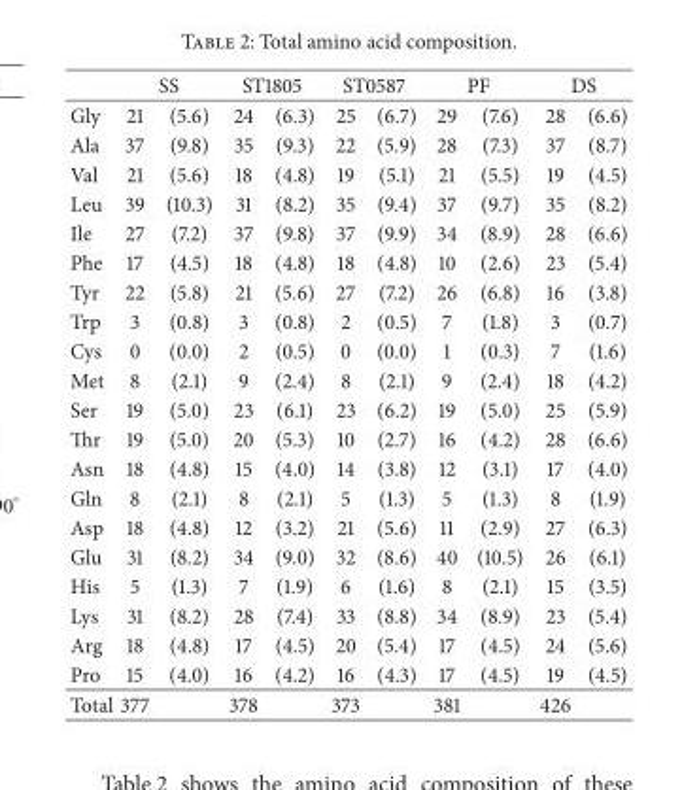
<table><thead><tr><td rowspan="2">Gly</td><td colspan="2">SS</td><td colspan="2">ST1805</td><td colspan="2">ST0587</td><td colspan="2">PF</td><td colspan="2">DS</td></tr><tr><td>21</td><td>(5.6)</td><td>24</td><td>(6.3)</td><td>25</td><td>(6.7)</td><td>29</td><td>(7.6)</td><td>28</td><td>(6.6)</td></tr></thead><tbody><tr><td>Ala</td><td>37</td><td>(9.8)</td><td>35</td><td>(9.3)</td><td>22</td><td>(5.9)</td><td>28</td><td>(7.3)</td><td>37</td><td>(8.7)</td></tr><tr><td>Val</td><td>21</td><td>(5.6)</td><td>18</td><td>(4.8)</td><td>19</td><td>(5.1)</td><td>21</td><td>(5.5)</td><td>19</td><td>(4.5)</td></tr><tr><td>Leu</td><td>39</td><td>(10.3)</td><td>31</td><td>(8.2)</td><td>35</td><td>(9.4)</td><td>37</td><td>(9.7)</td><td>35</td><td>(8.2)</td></tr><tr><td>Ile</td><td>27</td><td>(7.2)</td><td>37</td><td>(9.8)</td><td>37</td><td>(9.9)</td><td>34</td><td>(8.9)</td><td>28</td><td>(6.6)</td></tr><tr><td>Phe</td><td>17</td><td>(4.5)</td><td>18</td><td>(4.8)</td><td>18</td><td>(4.8)</td><td>10</td><td>(2.6)</td><td>23</td><td>(5.4)</td></tr><tr><td>Tyr</td><td>22</td><td>(5.8)</td><td>21</td><td>(5.6)</td><td>27</td><td>(7.2)</td><td>26</td><td>(6.8)</td><td>16</td><td>(3.8)</td></tr><tr><td>Trp</td><td>3</td><td>(0.8)</td><td>3</td><td>(0.8)</td><td>2</td><td>(0.5)</td><td>7</td><td>(1.8)</td><td>3</td><td>(0.7)</td></tr><tr><td>Cys</td><td>0</td><td>(0.0)</td><td>2</td><td>(0.5)</td><td>0</td><td>(0.0)</td><td>1</td><td>(0.3)</td><td>7</td><td>(1.6)</td></tr><tr><td>Met</td><td>8</td><td>(2.1)</td><td>9</td><td>(2.4)</td><td>8</td><td>(2.1)</td><td>9</td><td>(2.4)</td><td>18</td><td>(4.2)</td></tr><tr><td>Ser</td><td>19</td><td>(5.0)</td><td>23</td><td>(6.1)</td><td>23</td><td>(6.2)</td><td>19</td><td>(5.0)</td><td>25</td><td>(5.9)</td></tr><tr><td>Thr</td><td>19</td><td>(5.0)</td><td>20</td><td>(5.3)</td><td>10</td><td>(2.7)</td><td>16</td><td>(4.2)</td><td>28</td><td>(6.6)</td></tr><tr><td>Asn</td><td>18</td><td>(4.8)</td><td>15</td><td>(4.0)</td><td>14</td><td>(3.8)</td><td>12</td><td>(3.1)</td><td>17</td><td>(4.0)</td></tr><tr><td>Gln</td><td>8</td><td>(2.1)</td><td>8</td><td>(2.1)</td><td>5</td><td>(1.3)</td><td>5</td><td>(1.3)</td><td>8</td><td>(1.9)</td></tr><tr><td>Asp</td><td>18</td><td>(4.8)</td><td>12</td><td>(3.2)</td><td>21</td><td>(5.6)</td><td>11</td><td>(2.9)</td><td>27</td><td>(6.3)</td></tr><tr><td>Glu</td><td>31</td><td>(8.2)</td><td>34</td><td>(9.0)</td><td>32</td><td>(8.6)</td><td>40</td><td>(10.5)</td><td>26</td><td>(6.1)</td></tr><tr><td>His</td><td>5</td><td>(1.3)</td><td>7</td><td>(1.9)</td><td>6</td><td>(1.6)</td><td>8</td><td>(2.1)</td><td>15</td><td>(3.5)</td></tr><tr><td>Lys</td><td>31</td><td>(8.2)</td><td>28</td><td>(7.4)</td><td>33</td><td>(8.8)</td><td>34</td><td>(8.9)</td><td>23</td><td>(5.4)</td></tr><tr><td>Arg</td><td>18</td><td>(4.8)</td><td>17</td><td>(4.5)</td><td>20</td><td>(5.4)</td><td>17</td><td>(4.5)</td><td>24</td><td>(5.6)</td></tr><tr><td>Pro</td><td>15</td><td>(4.0)</td><td>16</td><td>(4.2)</td><td>16</td><td>(4.3)</td><td>17</td><td>(4.5)</td><td>19</td><td>(4.5)</td></tr><tr><td>Total</td><td>377</td><td></td><td>378</td><td></td><td>373</td><td></td><td>381</td><td></td><td>426</td><td></td></tr></tbody></table>